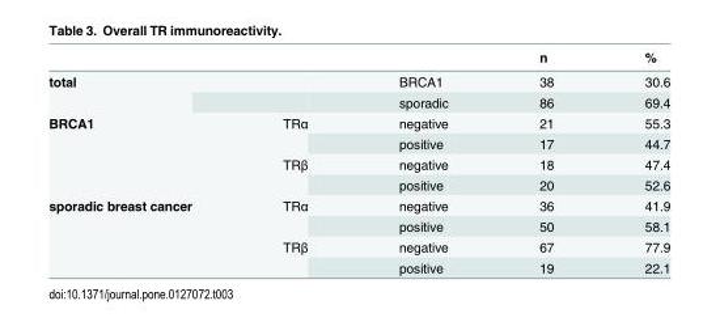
<table><thead><tr><td></td><td></td><td></td><td>n</td><td>%</td></tr></thead><tbody><tr><td rowspan="2">total</td><td></td><td>BRCA1</td><td>38</td><td>30.6</td></tr><tr><td></td><td>sporadic</td><td>86</td><td>69.4</td></tr><tr><td rowspan="4">BRCA1</td><td rowspan="2">TRα</td><td>negative</td><td>21</td><td>55.3</td></tr><tr><td>positive</td><td>17</td><td>44.7</td></tr><tr><td rowspan="2">TRβ</td><td>negative</td><td>18</td><td>47.4</td></tr><tr><td>positive</td><td>20</td><td>52.6</td></tr><tr><td rowspan="4">sporadic breast cancer</td><td rowspan="2">TRα</td><td>negative</td><td>36</td><td>41.9</td></tr><tr><td>positive</td><td>50</td><td>58.1</td></tr><tr><td rowspan="2">TRβ</td><td>negative</td><td>67</td><td>77.9</td></tr><tr><td>positive</td><td>19</td><td>22.1</td></tr></tbody></table>